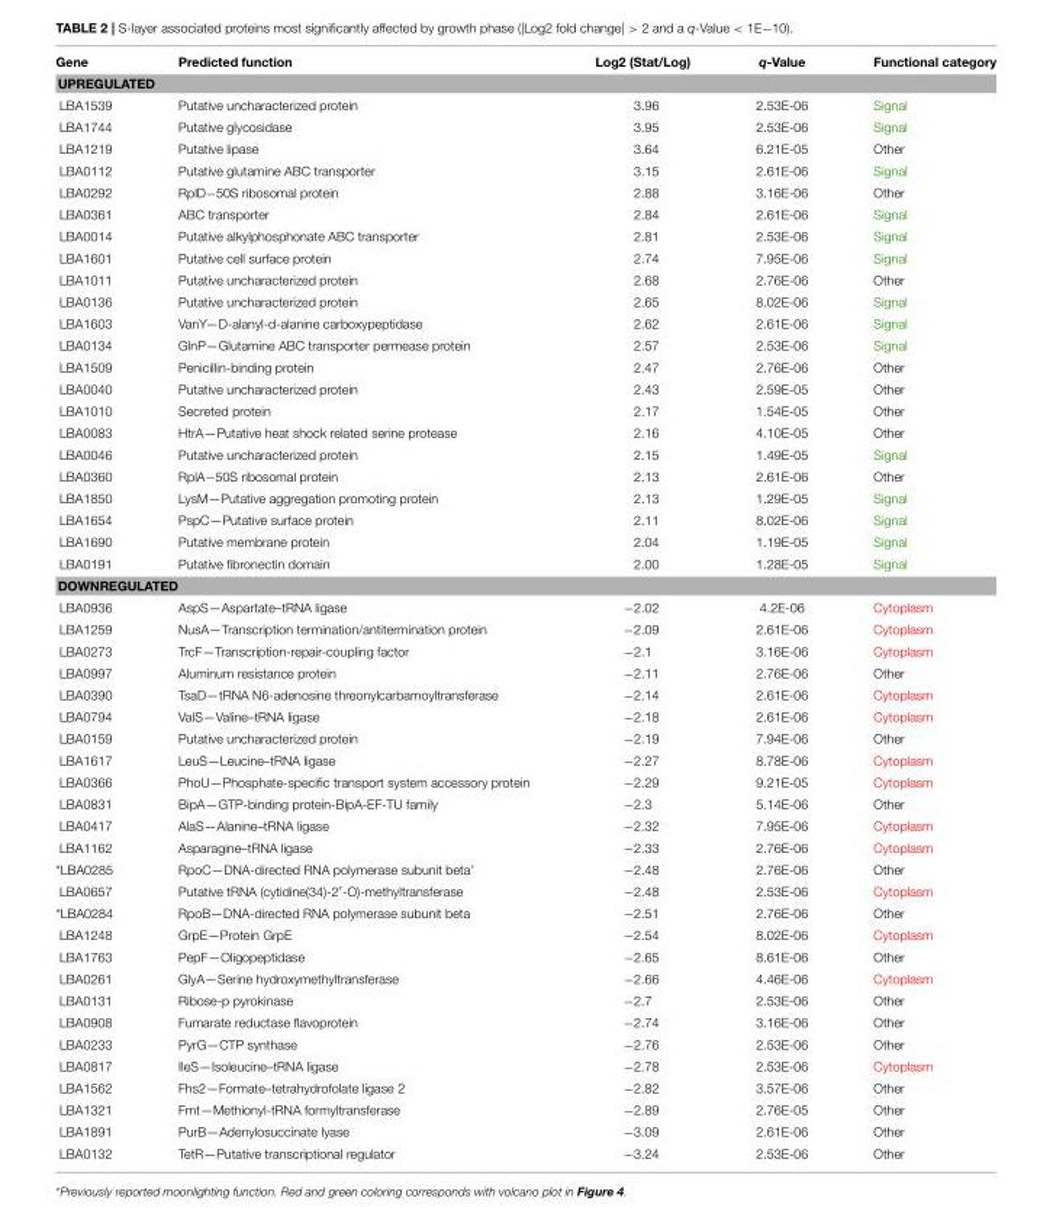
<table><thead><tr><td>Gene</td><td>Predicted function</td><td>Log2 (Stat/Log)</td><td>q-Value</td><td>Functional category</td></tr></thead><tbody><tr><td colspan="5">UPREGULATED</td></tr><tr><td>LBA1539</td><td>Putative uncharacterized protein</td><td>3.96</td><td>2.53E-06</td><td>Signal</td></tr><tr><td>LBA1744</td><td>Putative glycosidase</td><td>3.95</td><td>2.53E-06</td><td>Signal</td></tr><tr><td>LBA1219</td><td>Putative lipase</td><td>3.64</td><td>6.21E-05</td><td>Other</td></tr><tr><td>LBA0112</td><td>Putative glutamine ABC transporter</td><td>3.15</td><td>2.61E-06</td><td>Signal</td></tr><tr><td>LBA0292</td><td>RplD−50S ribosomal protein</td><td>2.88</td><td>3.16E-06</td><td>Other</td></tr><tr><td>LBA0361</td><td>ABC transporter</td><td>2.84</td><td>2.61E-06</td><td>Signal</td></tr><tr><td>LBA0014</td><td>Putative alkylphosphonate ABC transporter</td><td>2.81</td><td>2.53E-06</td><td>Signal</td></tr><tr><td>LBA1601</td><td>Putative cell surface protein</td><td>2.74</td><td>7.95E-06</td><td>Signal</td></tr><tr><td>LBA1011</td><td>Putative uncharacterized protein</td><td>2.68</td><td>2.76E-06</td><td>Other</td></tr><tr><td>LBA0136</td><td>Putative uncharacterized protein</td><td>2.65</td><td>8.02E-06</td><td>Signal</td></tr><tr><td>LBA1603</td><td>VanY—D-alanyl-d-alanine carboxypeptidase</td><td>2.62</td><td>2.61E-06</td><td>Signal</td></tr><tr><td>LBA0134</td><td>GlnP—Glutamine ABC transporter permease protein</td><td>2.57</td><td>2.53E-06</td><td>Signal</td></tr><tr><td>LBA1509</td><td>Penicillin-binding protein</td><td>2.47</td><td>2.76E-06</td><td>Other</td></tr><tr><td>LBA0040</td><td>Putative uncharacterized protein</td><td>2.43</td><td>2.59E-05</td><td>Other</td></tr><tr><td>LBA1010</td><td>Secreted protein</td><td>2.17</td><td>1.54E-05</td><td>Other</td></tr><tr><td>LBA0083</td><td>HtrA—Putative heat shock related serine protease</td><td>2.16</td><td>4.10E-05</td><td>Other</td></tr><tr><td>LBA0046</td><td>Putative uncharacterized protein</td><td>2.15</td><td>1.49E-05</td><td>Signal</td></tr><tr><td>LBA0360</td><td>RplA−50S ribosomal protein</td><td>2.13</td><td>2.61E-06</td><td>Other</td></tr><tr><td>LBA1850</td><td>LysM—Putative aggregation promoting protein</td><td>2.13</td><td>1.29E-05</td><td>Signal</td></tr><tr><td>LBA1654</td><td>PspC—Putative surface protein</td><td>2.11</td><td>8.02E-06</td><td>Signal</td></tr><tr><td>LBA1690</td><td>Putative membrane protein</td><td>2.04</td><td>1.19E-05</td><td>Signal</td></tr><tr><td>LBA0191</td><td>Putative fibronectin domain</td><td>2.00</td><td>1.28E-05</td><td>Signal</td></tr><tr><td colspan="5">DOWNREGULATED</td></tr><tr><td>LBA0936</td><td>AspS—Aspartate–tRNA ligase</td><td>−2.02</td><td>4.2E-06</td><td>Cytoplasm</td></tr><tr><td>LBA1259</td><td>NusA—Transcription termination/antitermination protein</td><td>−2.09</td><td>2.61E-06</td><td>Cytoplasm</td></tr><tr><td>LBA0273</td><td>TrcF—Transcription-repair-coupling factor</td><td>−2.1</td><td>3.16E-06</td><td>Cytoplasm</td></tr><tr><td>LBA0997</td><td>Aluminum resistance protein</td><td>−2.11</td><td>2.76E-06</td><td>Other</td></tr><tr><td>LBA0390</td><td>TsaD—tRNA N6-adenosine threonylcarbamoyltransferase</td><td>−2.14</td><td>2.61E-06</td><td>Cytoplasm</td></tr><tr><td>LBA0794</td><td>ValS—Valine–tRNA ligase</td><td>−2.18</td><td>2.61E-06</td><td>Cytoplasm</td></tr><tr><td>LBA0159</td><td>Putative uncharacterized protein</td><td>−2.19</td><td>7.94E-06</td><td>Other</td></tr><tr><td>LBA1617</td><td>LeuS—Leucine–tRNA ligase</td><td>−2.27</td><td>8.78E-06</td><td>Cytoplasm</td></tr><tr><td>LBA0366</td><td>PhoU—Phosphate-specific transport system accessory protein</td><td>−2.29</td><td>9.21E-05</td><td>Cytoplasm</td></tr><tr><td>LBA0831</td><td>BipA—GTP-binding protein-BipA-EF-TU family</td><td>−2.3</td><td>5.14E-06</td><td>Other</td></tr><tr><td>LBA0417</td><td>AlaS—Alanine–tRNA ligase</td><td>−2.32</td><td>7.95E-06</td><td>Cytoplasm</td></tr><tr><td>LBA1162</td><td>Asparagine–tRNA ligase</td><td>−2.33</td><td>2.76E-06</td><td>Cytoplasm</td></tr><tr><td>*LBA0285</td><td>RpoC—DNA-directed RNA polymerase subunit beta’</td><td>−2.48</td><td>2.76E-06</td><td>Other</td></tr><tr><td>LBA0657</td><td>Putative tRNA (cytidine(34)-2′-O)-methyltransferase</td><td>−2.48</td><td>2.53E-06</td><td>Cytoplasm</td></tr><tr><td>*LBA0284</td><td>RpoB—DNA-directed RNA polymerase subunit beta</td><td>−2.51</td><td>2.76E-06</td><td>Other</td></tr><tr><td>LBA1248</td><td>GrpE—Protein GrpE</td><td>−2.54</td><td>8.02E-06</td><td>Cytoplasm</td></tr><tr><td>LBA1763</td><td>PepF—Oligopeptidase</td><td>−2.65</td><td>8.61E-06</td><td>Other</td></tr><tr><td>LBA0261</td><td>GlyA—Serine hydroxymethyltransferase</td><td>−2.66</td><td>4.46E-06</td><td>Cytoplasm</td></tr><tr><td>LBA0131</td><td>Ribose-p pyrokinase</td><td>−2.7</td><td>2.53E-06</td><td>Other</td></tr><tr><td>LBA0908</td><td>Fumarate reductase flavoprotein</td><td>−2.74</td><td>3.16E-06</td><td>Other</td></tr><tr><td>LBA0233</td><td>PyrG—CTP synthase</td><td>−2.76</td><td>2.53E-06</td><td>Other</td></tr><tr><td>LBA0817</td><td>IleS—Isoleucine–tRNA ligase</td><td>−2.78</td><td>2.53E-06</td><td>Cytoplasm</td></tr><tr><td>LBA1562</td><td>Fhs2—Formate–tetrahydrofolate ligase 2</td><td>−2.82</td><td>3.57E-06</td><td>Other</td></tr><tr><td>LBA1321</td><td>Fmt—Methionyl-tRNA formyltransferase</td><td>−2.89</td><td>2.76E-05</td><td>Other</td></tr><tr><td>LBA1891</td><td>PurB—Adenylosuccinate lyase</td><td>−3.09</td><td>2.61E-06</td><td>Other</td></tr><tr><td>LBA0132</td><td>TetR—Putative transcriptional regulator</td><td>−3.24</td><td>2.53E-06</td><td>Other</td></tr></tbody></table>